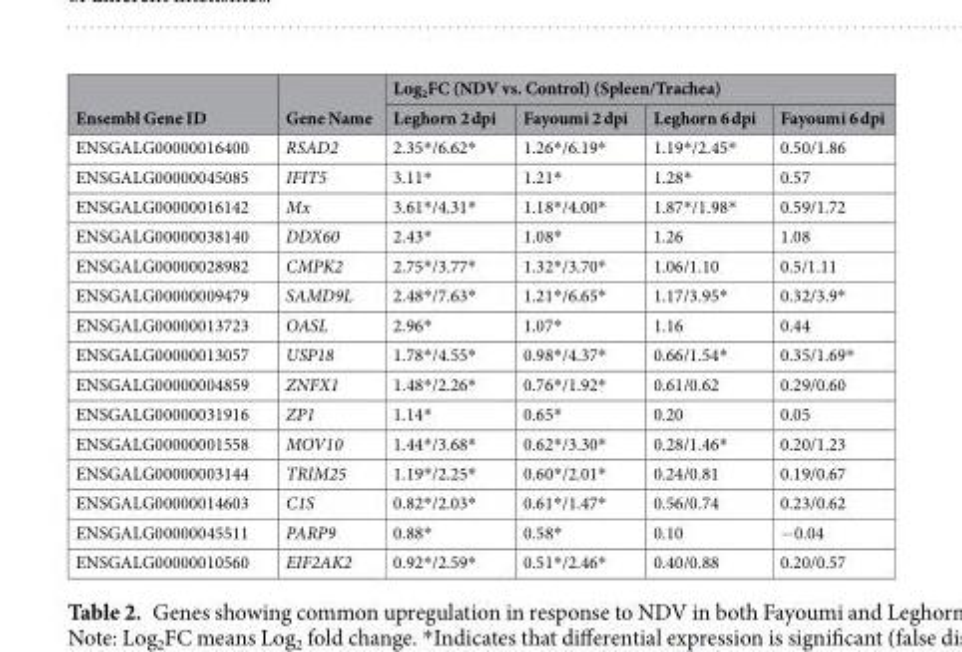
<table><thead><tr><td rowspan="2">Ensembl Gene ID</td><td rowspan="2">Gene Name</td><td colspan="4">Log<sub>2</sub>FC (NDV vs. Control) (Spleen/Trachea)</td></tr><tr><td>Leghorn 2 dpi</td><td>Fayoumi 2 dpi</td><td>Leghorn 6 dpi</td><td>Fayoumi 6 dpi</td></tr></thead><tbody><tr><td>ENSGALG00000016400</td><td>RSAD2</td><td>2.35*/6.62*</td><td>1.26*/6.19*</td><td>1.19*/2.45*</td><td>0.50/1.86</td></tr><tr><td>ENSGALG00000045085</td><td>IFIT5</td><td>3.11*</td><td>1.21*</td><td>1.28*</td><td>0.57</td></tr><tr><td>ENSGALG00000016142</td><td>Mx</td><td>3.61*/4.31*</td><td>1.18*/4.00*</td><td>1.87*/1.98*</td><td>0.59/1.72</td></tr><tr><td>ENSGALG00000038140</td><td>DDX60</td><td>2.43*</td><td>1.08*</td><td>1.26</td><td>1.08</td></tr><tr><td>ENSGALG00000028982</td><td>CMPK2</td><td>2.75*/3.77*</td><td>1.32*/3.70*</td><td>1.06/1.10</td><td>0.5/1.11</td></tr><tr><td>ENSGALG00000009479</td><td>SAMD9L</td><td>2.48*/7.63*</td><td>1.21*/6.65*</td><td>1.17/3.95*</td><td>0.32/3.9*</td></tr><tr><td>ENSGALG00000013723</td><td>OASL</td><td>2.96*</td><td>1.07*</td><td>1.16</td><td>0.44</td></tr><tr><td>ENSGALG00000013057</td><td>USP18</td><td>1.78*/4.55*</td><td>0.98*/4.37*</td><td>0.66/1.54*</td><td>0.35/1.69*</td></tr><tr><td>ENSGALG00000004859</td><td>ZNFX1</td><td>1.48*/2.26*</td><td>0.76*/1.92*</td><td>0.61/0.62</td><td>0.29/0.60</td></tr><tr><td>ENSGALG00000031916</td><td>ZP1</td><td>1.14*</td><td>0.65*</td><td>0.20</td><td>0.05</td></tr><tr><td>ENSGALG00000001558</td><td>MOV10</td><td>1.44*/3.68*</td><td>0.62*/3.30*</td><td>0.28/1.46*</td><td>0.20/1.23</td></tr><tr><td>ENSGALG00000003144</td><td>TRIM25</td><td>1.19*/2.25*</td><td>0.60*/2.01*</td><td>0.24/0.81</td><td>0.19/0.67</td></tr><tr><td>ENSGALG00000014603</td><td>C1S</td><td>0.82*/2.03*</td><td>0.61*/1.47*</td><td>0.56/0.74</td><td>0.23/0.62</td></tr><tr><td>ENSGALG00000045511</td><td>PARP9</td><td>0.88*</td><td>0.58*</td><td>0.10</td><td>−0.04</td></tr><tr><td>ENSGALG00000010560</td><td>EIF2AK2</td><td>0.92*/2.59*</td><td>0.51*/2.46*</td><td>0.40/0.88</td><td>0.20/0.57</td></tr></tbody></table>